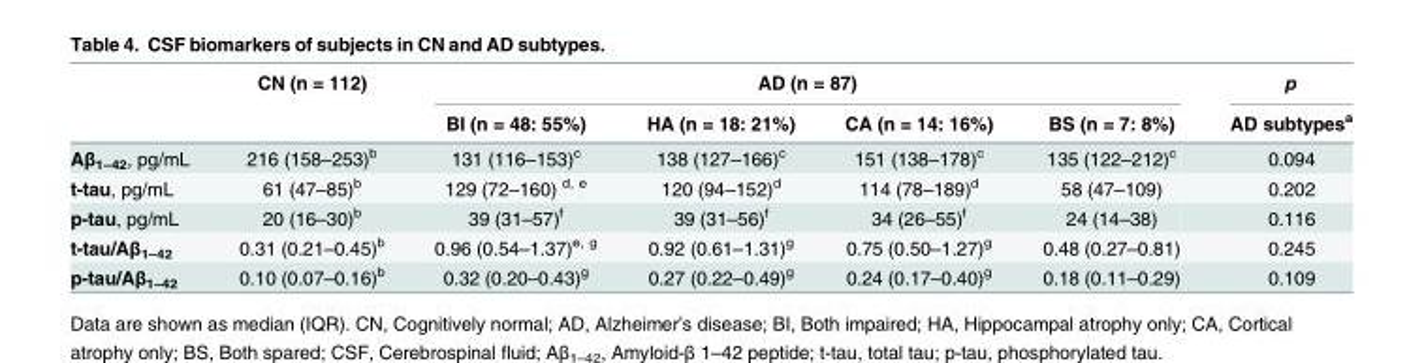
<table><thead><tr><td rowspan="2"></td><td rowspan="2">CN (n = 112)</td><td colspan="4">AD (n = 87)</td><td rowspan="2">p AD subtypes<sup>a</sup></td></tr><tr><td>BI (n = 48: 55%)</td><td>HA (n = 18: 21%)</td><td>CA (n = 14: 16%)</td><td>BS (n = 7: 8%)</td></tr></thead><tbody><tr><td>Aβ<sub>1–42</sub>, pg/mL</td><td>216 (158–253)<sup>b</sup></td><td>131 (116–153)<sup>c</sup></td><td>138 (127–166)<sup>c</sup></td><td>151 (138–178)<sup>c</sup></td><td>135 (122–212)<sup>c</sup></td><td>0.094</td></tr><tr><td>t-tau, pg/mL</td><td>61 (47–85)<sup>b</sup></td><td>129 (72–160) <sup>d, e</sup></td><td>120 (94–152)<sup>d</sup></td><td>114 (78–189)<sup>d</sup></td><td>58 (47–109)</td><td>0.202</td></tr><tr><td>p-tau, pg/mL</td><td>20 (16–30)<sup>b</sup></td><td>39 (31–57)<sup>f</sup></td><td>39 (31–56)<sup>f</sup></td><td>34 (26–55)<sup>f</sup></td><td>24 (14–38)</td><td>0.116</td></tr><tr><td>t-tau/Aβ<sub>1–42</sub></td><td>0.31 (0.21–0.45)<sup>b</sup></td><td>0.96 (0.54–1.37)<sup>e, g</sup></td><td>0.92 (0.61–1.31)<sup>g</sup></td><td>0.75 (0.50–1.27)<sup>g</sup></td><td>0.48 (0.27–0.81)</td><td>0.245</td></tr><tr><td>p-tau/Aβ<sub>1–42</sub></td><td>0.10 (0.07–0.16)<sup>b</sup></td><td>0.32 (0.20–0.43)<sup>g</sup></td><td>0.27 (0.22–0.49)<sup>g</sup></td><td>0.24 (0.17–0.40)<sup>g</sup></td><td>0.18 (0.11–0.29)</td><td>0.109</td></tr></tbody></table>